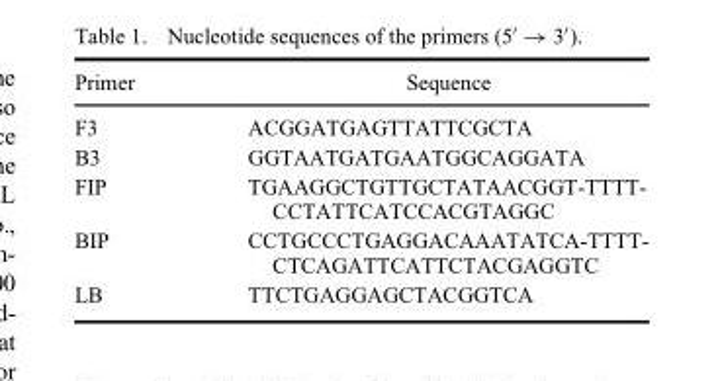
<table><thead><tr><td>Primer</td><td>Sequence</td></tr></thead><tbody><tr><td>F3</td><td>ACGGATGAGTTATTCGCTA</td></tr><tr><td>B3</td><td>GGTAATGATGAATGGCAGGATA</td></tr><tr><td>FIP</td><td>TGAAGGCTGTTGCTATAACGGT-TTTT- CCTATTCATCCACGTAGGC</td></tr><tr><td>BIP</td><td>CCTGCCCTGAGGACAAATATCA-TTTT- CTCAGATTCATTCTACGAGGTC</td></tr><tr><td>LB</td><td>TTCTGAGGAGCTACGGTCA</td></tr></tbody></table>